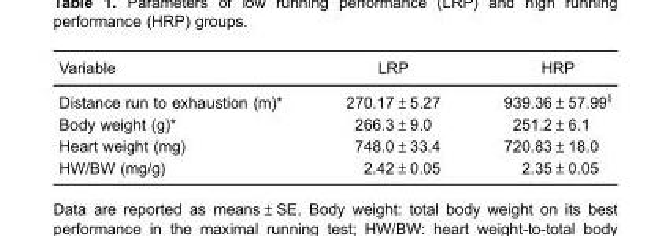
<table><thead><tr><td>Variable</td><td>LRP</td><td>HRP</td></tr></thead><tbody><tr><td>Distance run to exhaustion (m)*</td><td>270.17±5.27</td><td>939.36±57.99§</td></tr><tr><td>Body weight (g)*</td><td>266.3±9.0</td><td>251.2±6.1</td></tr><tr><td>Heart weight (mg)</td><td>748.0±33.4</td><td>720.83±18.0</td></tr><tr><td>HW/BW (mg/g)</td><td>2.42±0.05</td><td>2.35±0.05</td></tr></tbody></table>